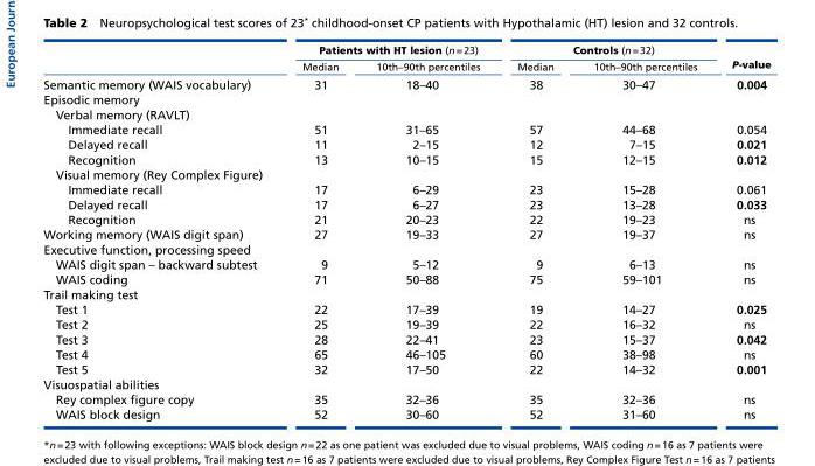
<table><thead><tr><td rowspan="2"></td><td colspan="2">Patients with HT lesion (n = 23)</td><td colspan="2">Controls (n = 32)</td><td rowspan="2">P-value</td></tr><tr><td>Median</td><td>10th–90th percentiles</td><td>Median</td><td>10th–90th percentiles</td></tr></thead><tbody><tr><td>Semantic memory (WAIS vocabulary)</td><td>31</td><td>18–40</td><td>38</td><td>30–47</td><td>0.004</td></tr><tr><td colspan="6">Episodic memory</td></tr><tr><td colspan="6">Verbal memory (RAVLT)</td></tr><tr><td>Immediate recall</td><td>51</td><td>31–65</td><td>57</td><td>44–68</td><td>0.054</td></tr><tr><td>Delayed recall</td><td>11</td><td>2–15</td><td>12</td><td>7–15</td><td>0.021</td></tr><tr><td>Recognition</td><td>13</td><td>10–15</td><td>15</td><td>12–15</td><td>0.012</td></tr><tr><td colspan="6">Visual memory (Rey Complex Figure)</td></tr><tr><td>Immediate recall</td><td>17</td><td>6–29</td><td>23</td><td>15–28</td><td>0.061</td></tr><tr><td>Delayed recall</td><td>17</td><td>6–27</td><td>23</td><td>13–28</td><td>0.033</td></tr><tr><td>Recognition</td><td>21</td><td>20–23</td><td>22</td><td>19–23</td><td>ns</td></tr><tr><td>Working memory (WAIS digit span)</td><td>27</td><td>19–33</td><td>27</td><td>19–37</td><td>ns</td></tr><tr><td colspan="6">Executive function, processing speed</td></tr><tr><td>WAIS digit span – backward subtest</td><td>9</td><td>5–12</td><td>9</td><td>6–13</td><td>ns</td></tr><tr><td>WAIS coding</td><td>71</td><td>50–88</td><td>75</td><td>59–101</td><td>ns</td></tr><tr><td colspan="6">Trail making test</td></tr><tr><td>Test 1</td><td>22</td><td>17–39</td><td>19</td><td>14–27</td><td>0.025</td></tr><tr><td>Test 2</td><td>25</td><td>19–39</td><td>22</td><td>16–32</td><td>ns</td></tr><tr><td>Test 3</td><td>28</td><td>22–41</td><td>23</td><td>15–37</td><td>0.042</td></tr><tr><td>Test 4</td><td>65</td><td>46–105</td><td>60</td><td>38–98</td><td>ns</td></tr><tr><td>Test 5</td><td>32</td><td>17–50</td><td>22</td><td>14–32</td><td>0.001</td></tr><tr><td colspan="6">Visuospatial abilities</td></tr><tr><td>Rey complex figure copy</td><td>35</td><td>32–36</td><td>35</td><td>32–36</td><td>ns</td></tr><tr><td>WAIS block design</td><td>52</td><td>30–60</td><td>52</td><td>31–60</td><td>ns</td></tr></tbody></table>